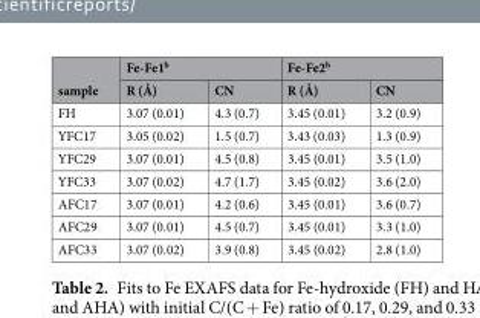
<table><thead><tr><td rowspan="2">sample</td><td colspan="2">Fe-Fe1<sup>b</sup></td><td colspan="2">Fe-Fe2<sup>b</sup></td></tr><tr><td>R (Å)</td><td>CN</td><td>R (Å)</td><td>CN</td></tr></thead><tbody><tr><td>FH</td><td>3.07 (0.01)</td><td>4.3 (0.7)</td><td>3.45 (0.01)</td><td>3.2 (0.9)</td></tr><tr><td>YFC17</td><td>3.05 (0.02)</td><td>1.5 (0.7)</td><td>3.43 (0.03)</td><td>1.3 (0.9)</td></tr><tr><td>YFC29</td><td>3.07 (0.01)</td><td>4.5 (0.8)</td><td>3.45 (0.01)</td><td>3.5 (1.0)</td></tr><tr><td>YFC33</td><td>3.07 (0.02)</td><td>4.7 (1.7)</td><td>3.45 (0.02)</td><td>3.6 (2.0)</td></tr><tr><td>AFC17</td><td>3.07 (0.01)</td><td>4.2 (0.6)</td><td>3.45 (0.01)</td><td>3.6 (0.7)</td></tr><tr><td>AFC29</td><td>3.07 (0.01)</td><td>4.5 (0.7)</td><td>3.45 (0.01)</td><td>3.3 (1.0)</td></tr><tr><td>AFC33</td><td>3.07 (0.02)</td><td>3.9 (0.8)</td><td>3.45 (0.02)</td><td>2.8 (1.0)</td></tr></tbody></table>